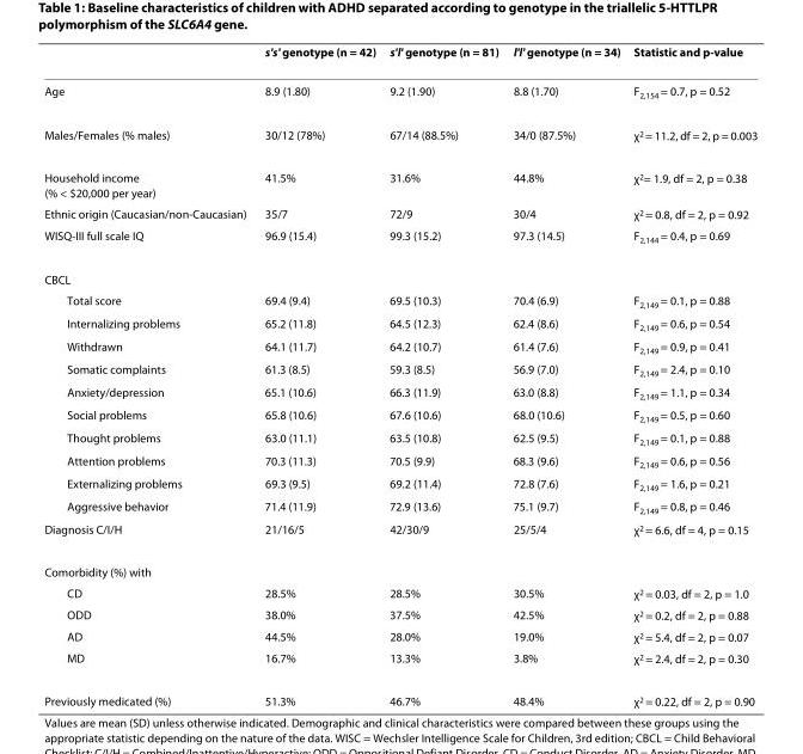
<table><thead><tr><td></td><td>s&#x27;s&#x27; genotype (n = 42)</td><td>s&#x27;l&#x27; genotype (n = 81)</td><td>l&#x27;l&#x27; genotype (n = 34)</td><td>Statistic and p-value</td></tr></thead><tbody><tr><td>Age</td><td>8.9 (1.80)</td><td>9.2 (1.90)</td><td>8.8 (1.70)</td><td>F<sub>2,154</sub> = 0.7, p = 0.52</td></tr><tr><td>Males/Females (% males)</td><td>30/12 (78%)</td><td>67/14 (88.5%)</td><td>34/0 (87.5%)</td><td>χ<sup>2</sup> = 11.2, df = 2, p = 0.003</td></tr><tr><td>Household income (% &lt; $20,000 per year)</td><td>41.5%</td><td>31.6%</td><td>44.8%</td><td>χ<sup>2</sup>= 1.9, df = 2, p = 0.38</td></tr><tr><td>Ethnic origin (Caucasian/non-Caucasian)</td><td>35/7</td><td>72/9</td><td>30/4</td><td>χ<sup>2</sup> = 0.8, df = 2, p = 0.92</td></tr><tr><td>WISQ-III full scale IQ</td><td>96.9 (15.4)</td><td>99.3 (15.2)</td><td>97.3 (14.5)</td><td>F<sub>2,144</sub> = 0.4, p = 0.69</td></tr><tr><td colspan="5">CBCL</td></tr><tr><td>Total score</td><td>69.4 (9.4)</td><td>69.5 (10.3)</td><td>70.4 (6.9)</td><td>F<sub>2,149</sub> = 0.1, p = 0.88</td></tr><tr><td>Internalizing problems</td><td>65.2 (11.8)</td><td>64.5 (12.3)</td><td>62.4 (8.6)</td><td>F<sub>2,149</sub> = 0.6, p = 0.54</td></tr><tr><td>Withdrawn</td><td>64.1 (11.7)</td><td>64.2 (10.7)</td><td>61.4 (7.6)</td><td>F<sub>2,149</sub> = 0.9, p = 0.41</td></tr><tr><td>Somatic complaints</td><td>61.3 (8.5)</td><td>59.3 (8.5)</td><td>56.9 (7.0)</td><td>F<sub>2,149</sub> = 2.4, p = 0.10</td></tr><tr><td>Anxiety/depression</td><td>65.1 (10.6)</td><td>66.3 (11.9)</td><td>63.0 (8.8)</td><td>F<sub>2,149</sub> = 1.1, p = 0.34</td></tr><tr><td>Social problems</td><td>65.8 (10.6)</td><td>67.6 (10.6)</td><td>68.0 (10.6)</td><td>F<sub>2,149</sub> = 0.5, p = 0.60</td></tr><tr><td>Thought problems</td><td>63.0 (11.1)</td><td>63.5 (10.8)</td><td>62.5 (9.5)</td><td>F<sub>2,149</sub> = 0.1, p = 0.88</td></tr><tr><td>Attention problems</td><td>70.3 (11.3)</td><td>70.5 (9.9)</td><td>68.3 (9.6)</td><td>F<sub>2,149</sub> = 0.6, p = 0.56</td></tr><tr><td>Externalizing problems</td><td>69.3 (9.5)</td><td>69.2 (11.4)</td><td>72.8 (7.6)</td><td>F<sub>2,149</sub> = 1.6, p = 0.21</td></tr><tr><td>Aggressive behavior</td><td>71.4 (11.9)</td><td>72.9 (13.6)</td><td>75.1 (9.7)</td><td>F<sub>2,149</sub> = 0.8, p = 0.46</td></tr><tr><td>Diagnosis C/I/H</td><td>21/16/5</td><td>42/30/9</td><td>25/5/4</td><td>χ<sup>2</sup> = 6.6, df = 4, p = 0.15</td></tr><tr><td colspan="5">Comorbidity (%) with</td></tr><tr><td>CD</td><td>28.5%</td><td>28.5%</td><td>30.5%</td><td>χ<sup>2</sup> = 0.03, df = 2, p = 1.0</td></tr><tr><td>ODD</td><td>38.0%</td><td>37.5%</td><td>42.5%</td><td>χ<sup>2</sup> = 0.2, df = 2, p = 0.88</td></tr><tr><td>AD</td><td>44.5%</td><td>28.0%</td><td>19.0%</td><td>χ<sup>2</sup> = 5.4, df = 2, p = 0.07</td></tr><tr><td>MD</td><td>16.7%</td><td>13.3%</td><td>3.8%</td><td>χ<sup>2</sup> = 2.4, df = 2, p = 0.30</td></tr><tr><td>Previously medicated (%)</td><td>51.3%</td><td>46.7%</td><td>48.4%</td><td>χ<sup>2</sup> = 0.22, df = 2, p = 0.90</td></tr></tbody></table>